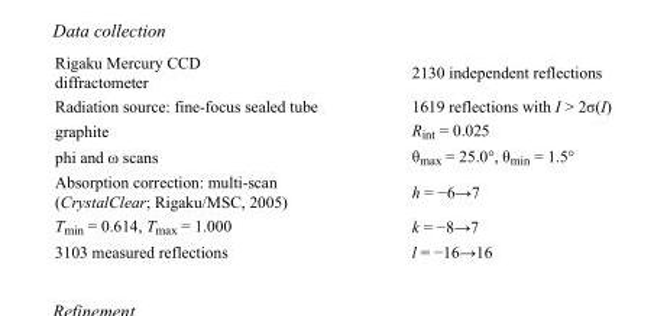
<table><tbody><tr><td>Rigaku Mercury CCD diffractometer</td><td>2130 independent reflections</td></tr><tr><td>Radiation source: fine-focus sealed tube</td><td>1619 reflections with I &gt; 2σ(I)</td></tr><tr><td>graphite</td><td>R<sub>int</sub> = 0.025</td></tr><tr><td>phi and ω scans</td><td>θ<sub>max</sub> = 25.0°, θ<sub>min</sub> = 1.5°</td></tr><tr><td>Absorption correction: multi-scan (CrystalClear; Rigaku/MSC, 2005)</td><td>h = −6→7</td></tr><tr><td>T<sub>min</sub> = 0.614, T<sub>max</sub> = 1.000</td><td>k = −8→7</td></tr><tr><td>3103 measured reflections</td><td>l = −16→16</td></tr></tbody></table>